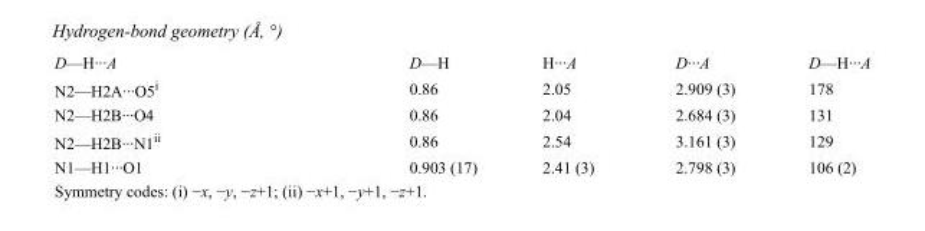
<table><tbody><tr><td>D—H···A</td><td>D—H</td><td>H···A</td><td>D···A</td><td>D—H···A</td></tr><tr><td>N2—H2A···O5<sup>i</sup></td><td>0.86</td><td>2.05</td><td>2.909 (3)</td><td>178</td></tr><tr><td>N2—H2B···O4</td><td>0.86</td><td>2.04</td><td>2.684 (3)</td><td>131</td></tr><tr><td>N2—H2B···N1<sup>ii</sup></td><td>0.86</td><td>2.54</td><td>3.161 (3)</td><td>129</td></tr><tr><td>N1—H1···O1</td><td>0.903 (17)</td><td>2.41 (3)</td><td>2.798 (3)</td><td>106 (2)</td></tr></tbody></table>